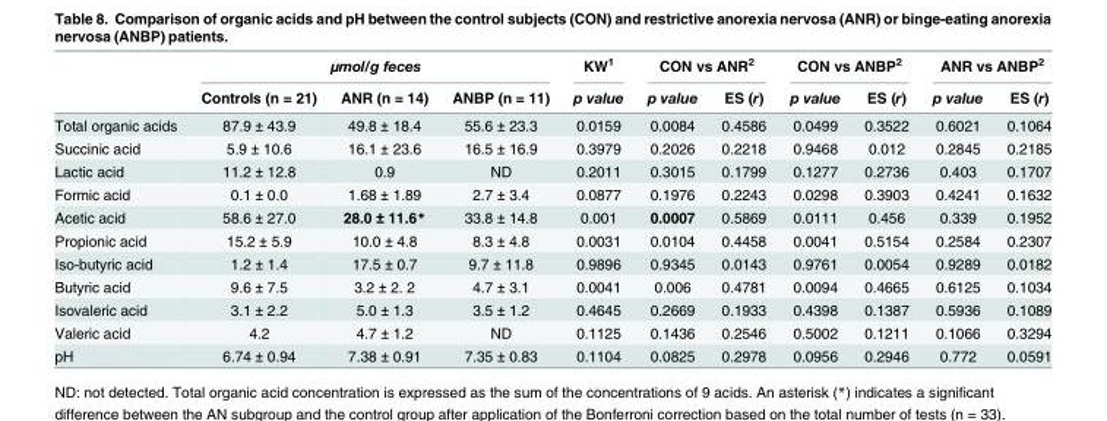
<table><thead><tr><td rowspan="2"></td><td colspan="3">μmol/g feces</td><td rowspan="2">KW<sup>1</sup> p value</td><td colspan="2">CON vs ANR<sup>2</sup></td><td colspan="2">CON vs ANBP<sup>2</sup></td><td colspan="2">ANR vs ANBP<sup>2</sup></td></tr><tr><td>Controls (n = 21)</td><td>ANR (n = 14)</td><td>ANBP (n = 11)</td><td>p value</td><td>ES (r)</td><td>p value</td><td>ES (r)</td><td>p value</td><td>ES (r)</td></tr></thead><tbody><tr><td>Total organic acids</td><td>87.9 ± 43.9</td><td>49.8 ± 18.4</td><td>55.6 ± 23.3</td><td>0.0159</td><td>0.0084</td><td>0.4586</td><td>0.0499</td><td>0.3522</td><td>0.6021</td><td>0.1064</td></tr><tr><td>Succinic acid</td><td>5.9 ± 10.6</td><td>16.1 ± 23.6</td><td>16.5 ± 16.9</td><td>0.3979</td><td>0.2026</td><td>0.2218</td><td>0.9468</td><td>0.012</td><td>0.2845</td><td>0.2185</td></tr><tr><td>Lactic acid</td><td>11.2 ± 12.8</td><td>0.9</td><td>ND</td><td>0.2011</td><td>0.3015</td><td>0.1799</td><td>0.1277</td><td>0.2736</td><td>0.403</td><td>0.1707</td></tr><tr><td>Formic acid</td><td>0.1 ± 0.0</td><td>1.68 ± 1.89</td><td>2.7 ± 3.4</td><td>0.0877</td><td>0.1976</td><td>0.2243</td><td>0.0298</td><td>0.3903</td><td>0.4241</td><td>0.1632</td></tr><tr><td>Acetic acid</td><td>58.6 ± 27.0</td><td>28.0 ± 11.6*</td><td>33.8 ± 14.8</td><td>0.001</td><td>0.0007</td><td>0.5869</td><td>0.0111</td><td>0.456</td><td>0.339</td><td>0.1952</td></tr><tr><td>Propionic acid</td><td>15.2 ± 5.9</td><td>10.0 ± 4.8</td><td>8.3 ± 4.8</td><td>0.0031</td><td>0.0104</td><td>0.4458</td><td>0.0041</td><td>0.5154</td><td>0.2584</td><td>0.2307</td></tr><tr><td>Iso-butyric acid</td><td>1.2 ± 1.4</td><td>17.5 ± 0.7</td><td>9.7 ± 11.8</td><td>0.9896</td><td>0.9345</td><td>0.0143</td><td>0.9761</td><td>0.0054</td><td>0.9289</td><td>0.0182</td></tr><tr><td>Butyric acid</td><td>9.6 ± 7.5</td><td>3.2 ± 2. 2</td><td>4.7 ± 3.1</td><td>0.0041</td><td>0.006</td><td>0.4781</td><td>0.0094</td><td>0.4665</td><td>0.6125</td><td>0.1034</td></tr><tr><td>Isovaleric acid</td><td>3.1 ± 2.2</td><td>5.0 ± 1.3</td><td>3.5 ± 1.2</td><td>0.4645</td><td>0.2669</td><td>0.1933</td><td>0.4398</td><td>0.1387</td><td>0.5936</td><td>0.1089</td></tr><tr><td>Valeric acid</td><td>4.2</td><td>4.7 ± 1.2</td><td>ND</td><td>0.1125</td><td>0.1436</td><td>0.2546</td><td>0.5002</td><td>0.1211</td><td>0.1066</td><td>0.3294</td></tr><tr><td>pH</td><td>6.74 ± 0.94</td><td>7.38 ± 0.91</td><td>7.35 ± 0.83</td><td>0.1104</td><td>0.0825</td><td>0.2978</td><td>0.0956</td><td>0.2946</td><td>0.772</td><td>0.0591</td></tr></tbody></table>